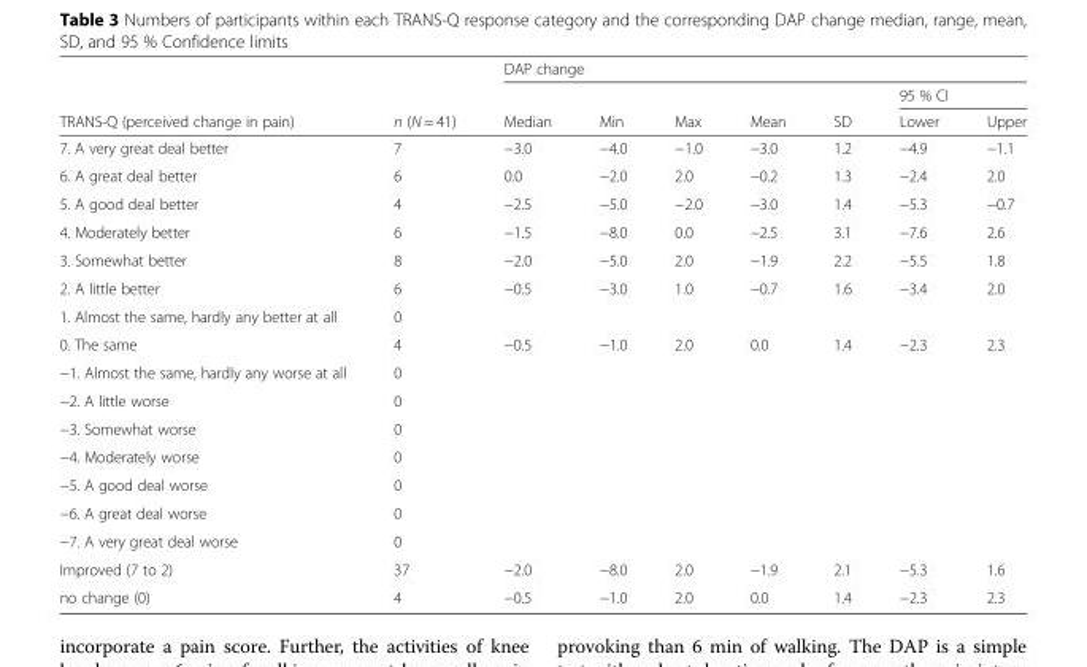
<table><thead><tr><td rowspan="3">TRANS-Q (perceived change in pain)</td><td rowspan="3">n (N = 41)</td><td colspan="7">DAP change</td></tr><tr><td rowspan="2">Median</td><td rowspan="2">Min</td><td rowspan="2">Max</td><td rowspan="2">Mean</td><td rowspan="2">SD</td><td colspan="2">95 % CI</td></tr><tr><td>Lower</td><td>Upper</td></tr></thead><tbody><tr><td>7. A very great deal better</td><td>7</td><td>−3.0</td><td>−4.0</td><td>−1.0</td><td>−3.0</td><td>1.2</td><td>−4.9</td><td>−1.1</td></tr><tr><td>6. A great deal better</td><td>6</td><td>0.0</td><td>−2.0</td><td>2.0</td><td>−0.2</td><td>1.3</td><td>−2.4</td><td>2.0</td></tr><tr><td>5. A good deal better</td><td>4</td><td>−2.5</td><td>−5.0</td><td>−2.0</td><td>−3.0</td><td>1.4</td><td>−5.3</td><td>−0.7</td></tr><tr><td>4. Moderately better</td><td>6</td><td>−1.5</td><td>−8.0</td><td>0.0</td><td>−2.5</td><td>3.1</td><td>−7.6</td><td>2.6</td></tr><tr><td>3. Somewhat better</td><td>8</td><td>−2.0</td><td>−5.0</td><td>2.0</td><td>−1.9</td><td>2.2</td><td>−5.5</td><td>1.8</td></tr><tr><td>2. A little better</td><td>6</td><td>−0.5</td><td>−3.0</td><td>1.0</td><td>−0.7</td><td>1.6</td><td>−3.4</td><td>2.0</td></tr><tr><td>1. Almost the same, hardly any better at all</td><td>0</td><td></td><td></td><td></td><td></td><td></td><td></td><td></td></tr><tr><td>0. The same</td><td>4</td><td>−0.5</td><td>−1.0</td><td>2.0</td><td>0.0</td><td>1.4</td><td>−2.3</td><td>2.3</td></tr><tr><td>−1. Almost the same, hardly any worse at all</td><td>0</td><td></td><td></td><td></td><td></td><td></td><td></td><td></td></tr><tr><td>−2. A little worse</td><td>0</td><td></td><td></td><td></td><td></td><td></td><td></td><td></td></tr><tr><td>−3. Somewhat worse</td><td>0</td><td></td><td></td><td></td><td></td><td></td><td></td><td></td></tr><tr><td>−4. Moderately worse</td><td>0</td><td></td><td></td><td></td><td></td><td></td><td></td><td></td></tr><tr><td>−5. A good deal worse</td><td>0</td><td></td><td></td><td></td><td></td><td></td><td></td><td></td></tr><tr><td>−6. A great deal worse</td><td>0</td><td></td><td></td><td></td><td></td><td></td><td></td><td></td></tr><tr><td>−7. A very great deal worse</td><td>0</td><td></td><td></td><td></td><td></td><td></td><td></td><td></td></tr><tr><td>Improved (7 to 2)</td><td>37</td><td>−2.0</td><td>−8.0</td><td>2.0</td><td>−1.9</td><td>2.1</td><td>−5.3</td><td>1.6</td></tr><tr><td>no change (0)</td><td>4</td><td>−0.5</td><td>−1.0</td><td>2.0</td><td>0.0</td><td>1.4</td><td>−2.3</td><td>2.3</td></tr></tbody></table>